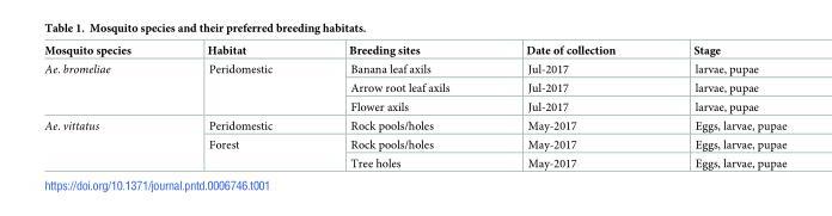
<table><thead><tr><td>Mosquito species</td><td>Habitat</td><td>Breeding sites</td><td>Date of collection</td><td>Stage</td></tr></thead><tbody><tr><td rowspan="3">Ae. bromeliae</td><td rowspan="3">Peridomestic</td><td>Banana leaf axils</td><td>Jul-2017</td><td>larvae, pupae</td></tr><tr><td>Arrow root leaf axils</td><td>Jul-2017</td><td>larvae, pupae</td></tr><tr><td>Flower axils</td><td>Jul-2017</td><td>larvae, pupae</td></tr><tr><td rowspan="3">Ae. vittatus</td><td>Peridomestic</td><td>Rock pools/holes</td><td>May-2017</td><td>Eggs, larvae, pupae</td></tr><tr><td rowspan="2">Forest</td><td>Rock pools/holes</td><td>May-2017</td><td>Eggs, larvae, pupae</td></tr><tr><td>Tree holes</td><td>May-2017</td><td>Eggs, larvae, pupae</td></tr></tbody></table>